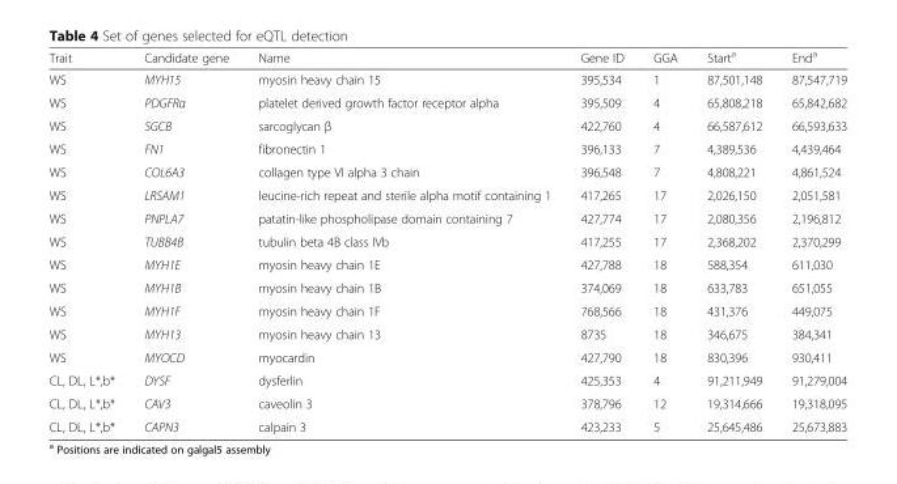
<table><thead><tr><td>Trait</td><td>Candidate gene</td><td>Name</td><td>Gene ID</td><td>GGA</td><td>Start<sup>a</sup></td><td>End<sup>a</sup></td></tr></thead><tbody><tr><td>WS</td><td>MYH15</td><td>myosin heavy chain 15</td><td>395,534</td><td>1</td><td>87,501,148</td><td>87,547,719</td></tr><tr><td>WS</td><td>PDGFRα</td><td>platelet derived growth factor receptor alpha</td><td>395,509</td><td>4</td><td>65,808,218</td><td>65,842,682</td></tr><tr><td>WS</td><td>SGCB</td><td>sarcoglycan β</td><td>422,760</td><td>4</td><td>66,587,612</td><td>66,593,633</td></tr><tr><td>WS</td><td>FN1</td><td>fibronectin 1</td><td>396,133</td><td>7</td><td>4,389,536</td><td>4,439,464</td></tr><tr><td>WS</td><td>COL6A3</td><td>collagen type VI alpha 3 chain</td><td>396,548</td><td>7</td><td>4,808,221</td><td>4,861,524</td></tr><tr><td>WS</td><td>LRSAM1</td><td>leucine-rich repeat and sterile alpha motif containing 1</td><td>417,265</td><td>17</td><td>2,026,150</td><td>2,051,581</td></tr><tr><td>WS</td><td>PNPLA7</td><td>patatin-like phospholipase domain containing 7</td><td>427,774</td><td>17</td><td>2,080,356</td><td>2,196,812</td></tr><tr><td>WS</td><td>TUBB4B</td><td>tubulin beta 4B class IVb</td><td>417,255</td><td>17</td><td>2,368,202</td><td>2,370,299</td></tr><tr><td>WS</td><td>MYH1E</td><td>myosin heavy chain 1E</td><td>427,788</td><td>18</td><td>588,354</td><td>611,030</td></tr><tr><td>WS</td><td>MYH1B</td><td>myosin heavy chain 1B</td><td>374,069</td><td>18</td><td>633,783</td><td>651,055</td></tr><tr><td>WS</td><td>MYH1F</td><td>myosin heavy chain 1F</td><td>768,566</td><td>18</td><td>431,376</td><td>449,075</td></tr><tr><td>WS</td><td>MYH13</td><td>myosin heavy chain 13</td><td>8735</td><td>18</td><td>346,675</td><td>384,341</td></tr><tr><td>WS</td><td>MYOCD</td><td>myocardin</td><td>427,790</td><td>18</td><td>830,396</td><td>930,411</td></tr><tr><td>CL, DL, L*,b*</td><td>DYSF</td><td>dysferlin</td><td>425,353</td><td>4</td><td>91,211,949</td><td>91,279,004</td></tr><tr><td>CL, DL, L*,b*</td><td>CAV3</td><td>caveolin 3</td><td>378,796</td><td>12</td><td>19,314,666</td><td>19,318,095</td></tr><tr><td>CL, DL, L*,b*</td><td>CAPN3</td><td>calpain 3</td><td>423,233</td><td>5</td><td>25,645,486</td><td>25,673,883</td></tr></tbody></table>